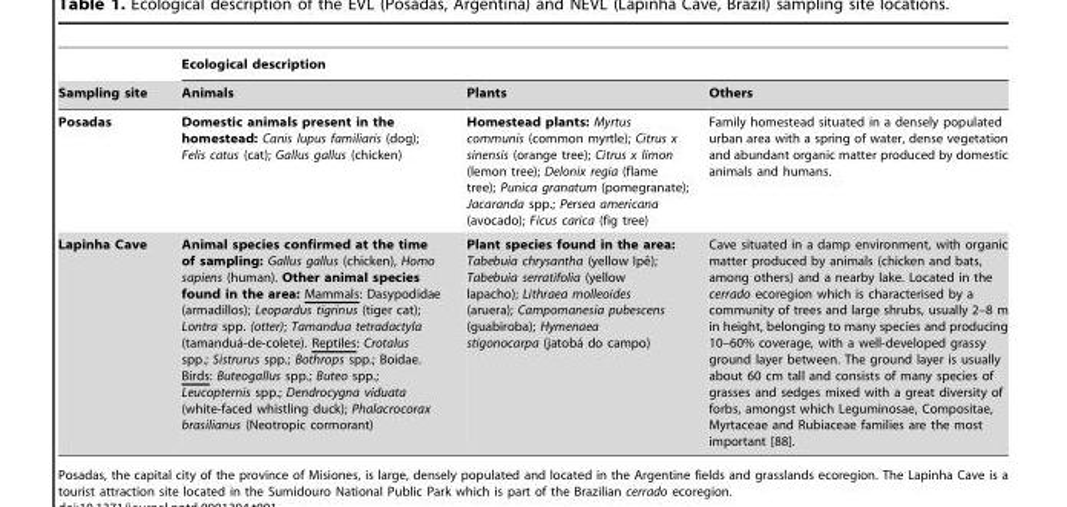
<table><thead><tr><td rowspan="2">Sampling site</td><td colspan="3">Ecological description</td></tr><tr><td>Animals</td><td>Plants</td><td>Others</td></tr></thead><tbody><tr><td>Posadas</td><td>Domestic animals present in the homestead: Canis lupus familiaris (dog); Felis catus (cat); Gallus gallus (chicken)</td><td>Homestead plants: Myrtus communis (common myrtle); Citrus x sinensis (orange tree); Citrus x limon (lemon tree); Delonix regia (flame tree); Punica granatum (pomegranate); Jacaranda spp.; Persea americana (avocado); Ficus carica (fig tree)</td><td>Family homestead situated in a densely populated urban area with a spring of water, dense vegetation and abundant organic matter produced by domestic animals and humans.</td></tr><tr><td>Lapinha Cave</td><td>Animal species confirmed at the time of sampling: Gallus gallus (chicken), Homo sapiens (human). Other animal species found in the area: Mammals: Dasypodidae (armadillos); Leopardus tigrinus (tiger cat); Lontra spp. (otter); Tamandua tetradactyla (tamandua´-de-colete). Reptiles: Crotalus spp.; Sistrurus spp.; Bothrops spp.; Boidae. Birds: Buteogallus spp.; Buteo spp.; Leucopternis spp.; Dendrocygna viduata (white-faced whistling duck); Phalacrocorax brasilianus (Neotropic cormorant)</td><td>Plant species found in the area: Tabebuia chrysantha (yellow Ipeˆ); Tabebuia serratifolia (yellow lapacho); Lithraea molleoides (aruera); Campomanesia pubescens (guabiroba); Hymenaea stigonocarpa (jatoba´ do campo)</td><td>Cave situated in a damp environment, with organic matter produced by animals (chicken and bats, among others) and a nearby lake. Located in the cerrado ecoregion which is characterised by a community of trees and large shrubs, usually 2–8 m in height, belonging to many species and producing 10–60% coverage, with a well-developed grassy ground layer between. The ground layer is usually about 60 cm tall and consists of many species of grasses and sedges mixed with a great diversity of forbs, amongst which Leguminosae, Compositae, Myrtaceae and Rubiaceae families are the most important [88].</td></tr></tbody></table>